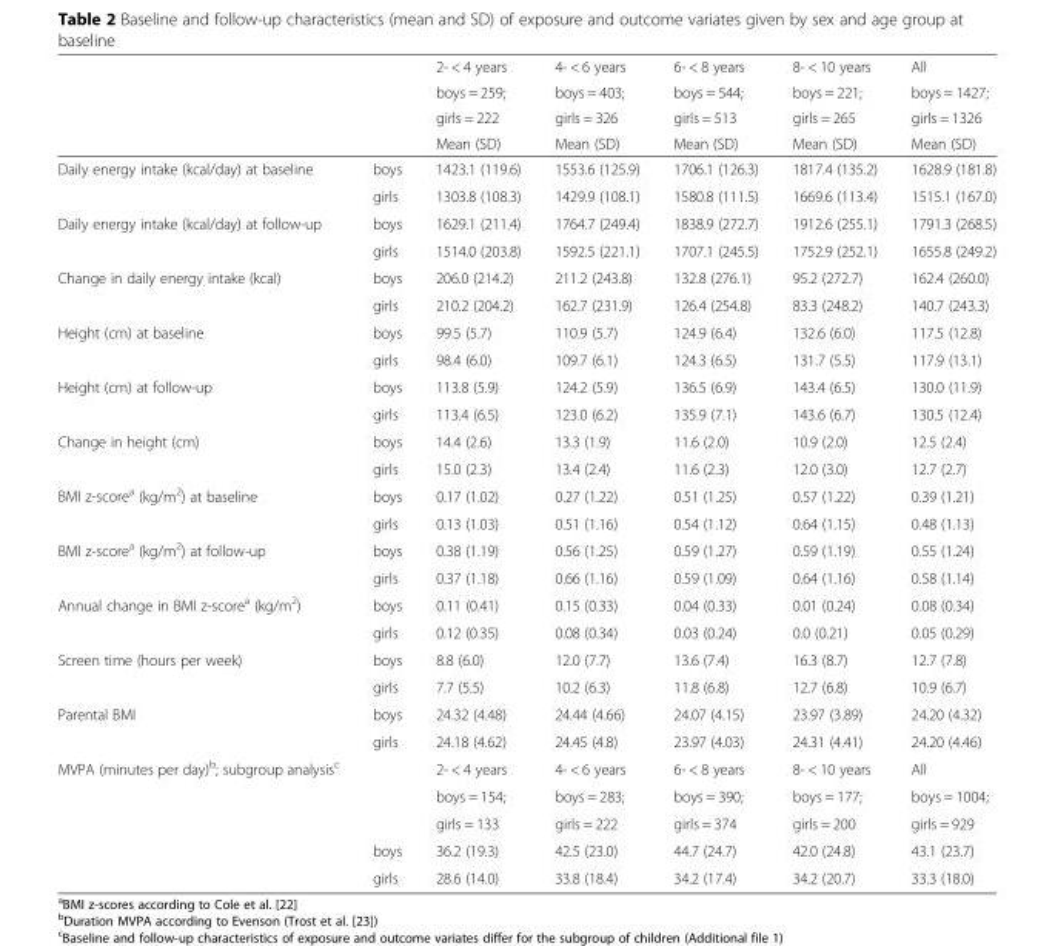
<table><thead><tr><td rowspan="4"></td><td rowspan="4"></td><td rowspan="4">2- &lt; 4 years boys = 259; girls = 222 Mean (SD)</td><td rowspan="4">4- &lt; 6 years boys = 403; girls = 326 Mean (SD)</td><td rowspan="4">6- &lt; 8 years boys = 544; girls = 513 Mean (SD)</td><td rowspan="4">8- &lt; 10 years boys = 221; girls = 265 Mean (SD)</td><td rowspan="4">All boys = 1427; girls = 1326 Mean (SD)</td></tr><tr></tr><tr></tr><tr></tr></thead><tbody><tr><td rowspan="2">Daily energy intake (kcal/day) at baseline</td><td>boys</td><td>1423.1 (119.6)</td><td>1553.6 (125.9)</td><td>1706.1 (126.3)</td><td>1817.4 (135.2)</td><td>1628.9 (181.8)</td></tr><tr><td>girls</td><td>1303.8 (108.3)</td><td>1429.9 (108.1)</td><td>1580.8 (111.5)</td><td>1669.6 (113.4)</td><td>1515.1 (167.0)</td></tr><tr><td rowspan="2">Daily energy intake (kcal/day) at follow-up</td><td>boys</td><td>1629.1 (211.4)</td><td>1764.7 (249.4)</td><td>1838.9 (272.7)</td><td>1912.6 (255.1)</td><td>1791.3 (268.5)</td></tr><tr><td>girls</td><td>1514.0 (203.8)</td><td>1592.5 (221.1)</td><td>1707.1 (245.5)</td><td>1752.9 (252.1)</td><td>1655.8 (249.2)</td></tr><tr><td rowspan="2">Change in daily energy intake (kcal)</td><td>boys</td><td>206.0 (214.2)</td><td>211.2 (243.8)</td><td>132.8 (276.1)</td><td>95.2 (272.7)</td><td>162.4 (260.0)</td></tr><tr><td>girls</td><td>210.2 (204.2)</td><td>162.7 (231.9)</td><td>126.4 (254.8)</td><td>83.3 (248.2)</td><td>140.7 (243.3)</td></tr><tr><td rowspan="2">Height (cm) at baseline</td><td>boys</td><td>99.5 (5.7)</td><td>110.9 (5.7)</td><td>124.9 (6.4)</td><td>132.6 (6.0)</td><td>117.5 (12.8)</td></tr><tr><td>girls</td><td>98.4 (6.0)</td><td>109.7 (6.1)</td><td>124.3 (6.5)</td><td>131.7 (5.5)</td><td>117.9 (13.1)</td></tr><tr><td rowspan="2">Height (cm) at follow-up</td><td>boys</td><td>113.8 (5.9)</td><td>124.2 (5.9)</td><td>136.5 (6.9)</td><td>143.4 (6.5)</td><td>130.0 (11.9)</td></tr><tr><td>girls</td><td>113.4 (6.5)</td><td>123.0 (6.2)</td><td>135.9 (7.1)</td><td>143.6 (6.7)</td><td>130.5 (12.4)</td></tr><tr><td rowspan="2">Change in height (cm)</td><td>boys</td><td>14.4 (2.6)</td><td>13.3 (1.9)</td><td>11.6 (2.0)</td><td>10.9 (2.0)</td><td>12.5 (2.4)</td></tr><tr><td>girls</td><td>15.0 (2.3)</td><td>13.4 (2.4)</td><td>11.6 (2.3)</td><td>12.0 (3.0)</td><td>12.7 (2.7)</td></tr><tr><td rowspan="2">BMI z-score<sup>a</sup> (kg/m<sup>2</sup>) at baseline</td><td>boys</td><td>0.17 (1.02)</td><td>0.27 (1.22)</td><td>0.51 (1.25)</td><td>0.57 (1.22)</td><td>0.39 (1.21)</td></tr><tr><td>girls</td><td>0.13 (1.03)</td><td>0.51 (1.16)</td><td>0.54 (1.12)</td><td>0.64 (1.15)</td><td>0.48 (1.13)</td></tr><tr><td rowspan="2">BMI z-score<sup>a</sup> (kg/m<sup>2</sup>) at follow-up</td><td>boys</td><td>0.38 (1.19)</td><td>0.56 (1.25)</td><td>0.59 (1.27)</td><td>0.59 (1.19)</td><td>0.55 (1.24)</td></tr><tr><td>girls</td><td>0.37 (1.18)</td><td>0.66 (1.16)</td><td>0.59 (1.09)</td><td>0.64 (1.16)</td><td>0.58 (1.14)</td></tr><tr><td rowspan="2">Annual change in BMI z-score<sup>a</sup> (kg/m<sup>2</sup>)</td><td>boys</td><td>0.11 (0.41)</td><td>0.15 (0.33)</td><td>0.04 (0.33)</td><td>0.01 (0.24)</td><td>0.08 (0.34)</td></tr><tr><td>girls</td><td>0.12 (0.35)</td><td>0.08 (0.34)</td><td>0.03 (0.24)</td><td>0.0 (0.21)</td><td>0.05 (0.29)</td></tr><tr><td rowspan="2">Screen time (hours per week)</td><td>boys</td><td>8.8 (6.0)</td><td>12.0 (7.7)</td><td>13.6 (7.4)</td><td>16.3 (8.7)</td><td>12.7 (7.8)</td></tr><tr><td>girls</td><td>7.7 (5.5)</td><td>10.2 (6.3)</td><td>11.8 (6.8)</td><td>12.7 (6.8)</td><td>10.9 (6.7)</td></tr><tr><td rowspan="2">Parental BMI</td><td>boys</td><td>24.32 (4.48)</td><td>24.44 (4.66)</td><td>24.07 (4.15)</td><td>23.97 (3.89)</td><td>24.20 (4.32)</td></tr><tr><td>girls</td><td>24.18 (4.62)</td><td>24.45 (4.8)</td><td>23.97 (4.03)</td><td>24.31 (4.41)</td><td>24.20 (4.46)</td></tr><tr><td rowspan="5">MVPA (minutes per day)<sup>b</sup>; subgroup analysis<sup>c</sup></td><td rowspan="3"></td><td>2- &lt; 4 years</td><td>4- &lt; 6 years</td><td>6- &lt; 8 years</td><td>8- &lt; 10 years</td><td>All</td></tr><tr><td>boys = 154;</td><td>boys = 283;</td><td>boys = 390;</td><td>boys = 177;</td><td>boys = 1004;</td></tr><tr><td>girls = 133</td><td>girls = 222</td><td>girls = 374</td><td>girls = 200</td><td>girls = 929</td></tr><tr><td>boys</td><td>36.2 (19.3)</td><td>42.5 (23.0)</td><td>44.7 (24.7)</td><td>42.0 (24.8)</td><td>43.1 (23.7)</td></tr><tr><td>girls</td><td>28.6 (14.0)</td><td>33.8 (18.4)</td><td>34.2 (17.4)</td><td>34.2 (20.7)</td><td>33.3 (18.0)</td></tr></tbody></table>